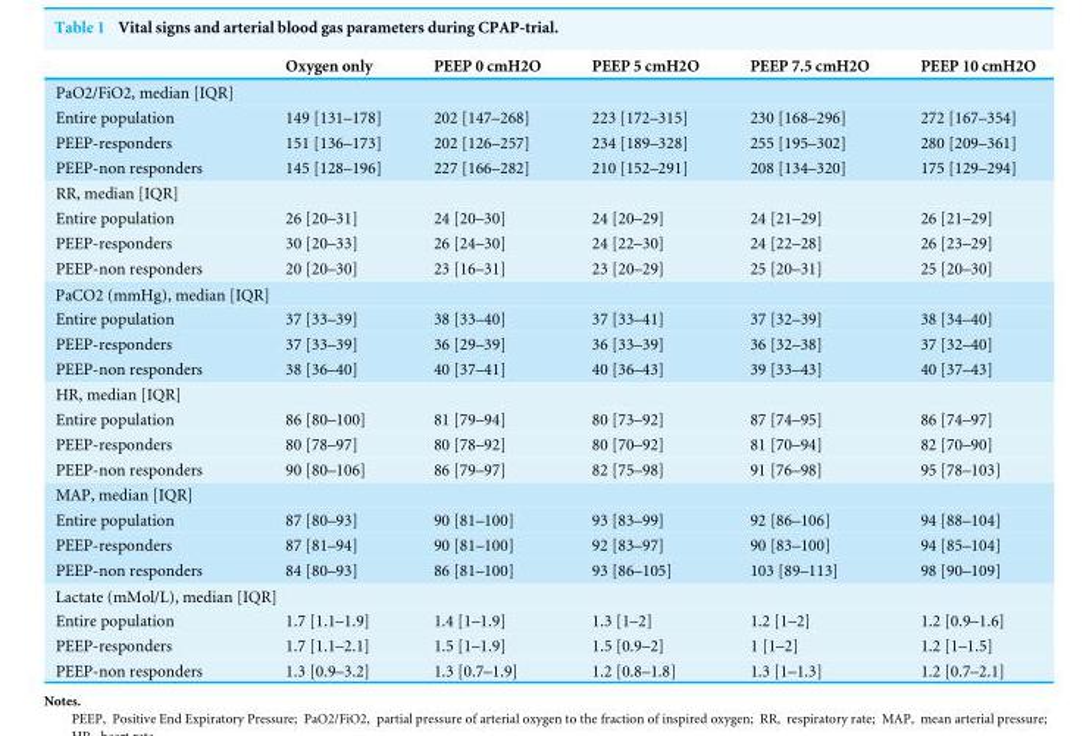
<table><thead><tr><td></td><td>Oxygen only</td><td>PEEP 0 cmH2O</td><td>PEEP 5 cmH2O</td><td>PEEP 7.5 cmH2O</td><td>PEEP 10 cmH2O</td></tr></thead><tbody><tr><td colspan="6">PaO2/FiO2, median [IQR]</td></tr><tr><td>Entire population</td><td>149 [131–178]</td><td>202 [147–268]</td><td>223 [172–315]</td><td>230 [168–296]</td><td>272 [167–354]</td></tr><tr><td>PEEP-responders</td><td>151 [136–173]</td><td>202 [126–257]</td><td>234 [189–328]</td><td>255 [195–302]</td><td>280 [209–361]</td></tr><tr><td>PEEP-non responders</td><td>145 [128–196]</td><td>227 [166–282]</td><td>210 [152–291]</td><td>208 [134–320]</td><td>175 [129–294]</td></tr><tr><td colspan="6">RR, median [IQR]</td></tr><tr><td>Entire population</td><td>26 [20–31]</td><td>24 [20–30]</td><td>24 [20–29]</td><td>24 [21–29]</td><td>26 [21–29]</td></tr><tr><td>PEEP-responders</td><td>30 [20–33]</td><td>26 [24–30]</td><td>24 [22–30]</td><td>24 [22–28]</td><td>26 [23–29]</td></tr><tr><td>PEEP-non responders</td><td>20 [20–30]</td><td>23 [16–31]</td><td>23 [20–29]</td><td>25 [20–31]</td><td>25 [20–30]</td></tr><tr><td colspan="6">PaCO2 (mmHg), median [IQR]</td></tr><tr><td>Entire population</td><td>37 [33–39]</td><td>38 [33–40]</td><td>37 [33–41]</td><td>37 [32–39]</td><td>38 [34–40]</td></tr><tr><td>PEEP-responders</td><td>37 [33–39]</td><td>36 [29–39]</td><td>36 [33–39]</td><td>36 [32–38]</td><td>37 [32–40]</td></tr><tr><td>PEEP-non responders</td><td>38 [36–40]</td><td>40 [37–41]</td><td>40 [36–43]</td><td>39 [33–43]</td><td>40 [37–43]</td></tr><tr><td colspan="6">HR, median [IQR]</td></tr><tr><td>Entire population</td><td>86 [80–100]</td><td>81 [79–94]</td><td>80 [73–92]</td><td>87 [74–95]</td><td>86 [74–97]</td></tr><tr><td>PEEP-responders</td><td>80 [78–97]</td><td>80 [78–92]</td><td>80 [70–92]</td><td>81 [70–94]</td><td>82 [70–90]</td></tr><tr><td>PEEP-non responders</td><td>90 [80–106]</td><td>86 [79–97]</td><td>82 [75–98]</td><td>91 [76–98]</td><td>95 [78–103]</td></tr><tr><td colspan="6">MAP, median [IQR]</td></tr><tr><td>Entire population</td><td>87 [80–93]</td><td>90 [81–100]</td><td>93 [83–99]</td><td>92 [86–106]</td><td>94 [88–104]</td></tr><tr><td>PEEP-responders</td><td>87 [81–94]</td><td>90 [81–100]</td><td>92 [83–97]</td><td>90 [83–100]</td><td>94 [85–104]</td></tr><tr><td>PEEP-non responders</td><td>84 [80–93]</td><td>86 [81–100]</td><td>93 [86–105]</td><td>103 [89–113]</td><td>98 [90–109]</td></tr><tr><td colspan="6">Lactate (mMol/L), median [IQR]</td></tr><tr><td>Entire population</td><td>1.7 [1.1–1.9]</td><td>1.4 [1–1.9]</td><td>1.3 [1–2]</td><td>1.2 [1–2]</td><td>1.2 [0.9–1.6]</td></tr><tr><td>PEEP-responders</td><td>1.7 [1.1–2.1]</td><td>1.5 [1–1.9]</td><td>1.5 [0.9–2]</td><td>1 [1–2]</td><td>1.2 [1–1.5]</td></tr><tr><td>PEEP-non responders</td><td>1.3 [0.9–3.2]</td><td>1.3 [0.7–1.9]</td><td>1.2 [0.8–1.8]</td><td>1.3 [1–1.3]</td><td>1.2 [0.7–2.1]</td></tr></tbody></table>